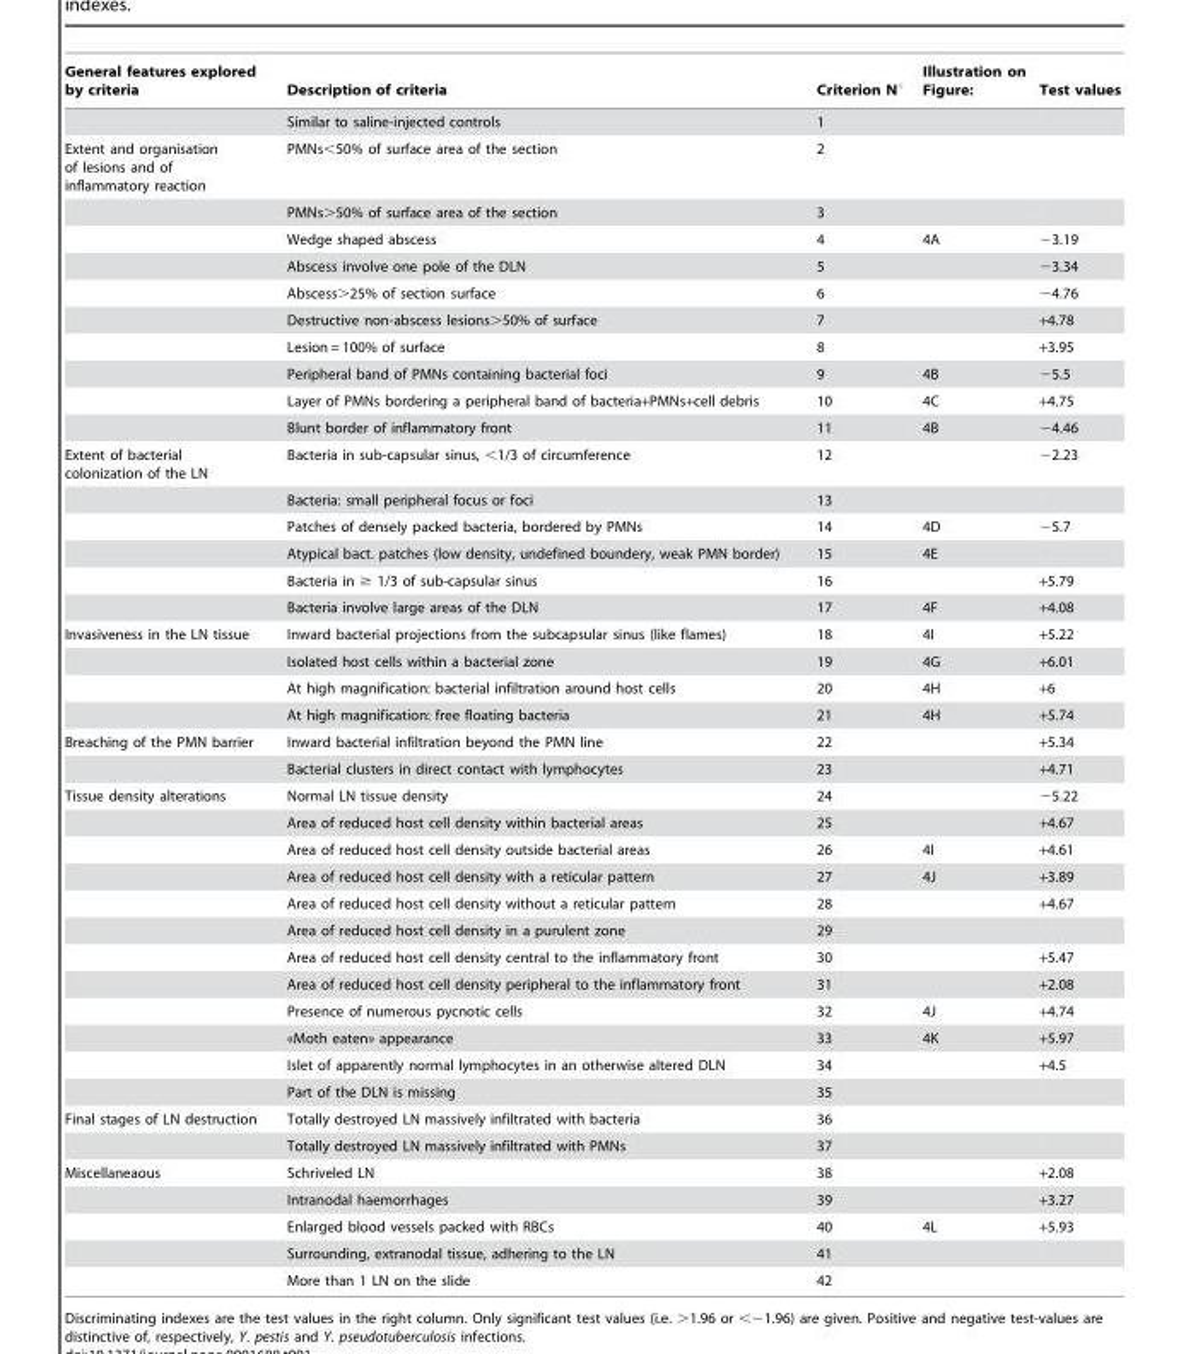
<table><thead><tr><td>General features explored by criteria</td><td>Description of criteria</td><td>Criterion N°</td><td>Illustration on Figure:</td><td>Test values</td></tr></thead><tbody><tr><td></td><td>Similar to saline-injected controls</td><td>1</td><td></td><td></td></tr><tr><td rowspan="10">Extent and organisation of lesions and of inflammatory reaction</td><td>PMNs&lt;50% of surface area of the section</td><td>2</td><td></td><td></td></tr><tr><td>PMNs&gt;50% of surface area of the section</td><td>3</td><td></td><td></td></tr><tr><td>Wedge shaped abscess</td><td>4</td><td>4A</td><td>−3.19</td></tr><tr><td>Abscess involve one pole of the DLN</td><td>5</td><td></td><td>−3.34</td></tr><tr><td>Abscess&gt;25% of section surface</td><td>6</td><td></td><td>−4.76</td></tr><tr><td>Destructive non-abscess lesions&gt;50% of surface</td><td>7</td><td></td><td>+4.78</td></tr><tr><td>Lesion = 100% of surface</td><td>8</td><td></td><td>+3.95</td></tr><tr><td>Peripheral band of PMNs containing bacterial foci</td><td>9</td><td>4B</td><td>−5.5</td></tr><tr><td>Layer of PMNs bordering a peripheral band of bacteria+PMNs+cell debris</td><td>10</td><td>4C</td><td>+4.75</td></tr><tr><td>Blunt border of inflammatory front</td><td>11</td><td>4B</td><td>−4.46</td></tr><tr><td rowspan="6">Extent of bacterial colonization of the LN</td><td>Bacteria in sub-capsular sinus, &lt;1/3 of circumference</td><td>12</td><td></td><td>−2.23</td></tr><tr><td>Bacteria: small peripheral focus or foci</td><td>13</td><td></td><td></td></tr><tr><td>Patches of densely packed bacteria, bordered by PMNs</td><td>14</td><td>4D</td><td>−5.7</td></tr><tr><td>Atypical bact. patches (low density, undefined boundery, weak PMN border)</td><td>15</td><td>4E</td><td></td></tr><tr><td>Bacteria in ≥ 1/3 of sub-capsular sinus</td><td>16</td><td></td><td>+5.79</td></tr><tr><td>Bacteria involve large areas of the DLN</td><td>17</td><td>4F</td><td>+4.08</td></tr><tr><td rowspan="4">Invasiveness in the LN tissue</td><td>Inward bacterial projections from the subcapsular sinus (like flames)</td><td>18</td><td>4I</td><td>+5.22</td></tr><tr><td>Isolated host cells within a bacterial zone</td><td>19</td><td>4G</td><td>+6.01</td></tr><tr><td>At high magnification: bacterial infiltration around host cells</td><td>20</td><td>4H</td><td>+6</td></tr><tr><td>At high magnification: free floating bacteria</td><td>21</td><td>4H</td><td>+5.74</td></tr><tr><td rowspan="2">Breaching of the PMN barrier</td><td>Inward bacterial infiltration beyond the PMN line</td><td>22</td><td></td><td>+5.34</td></tr><tr><td>Bacterial clusters in direct contact with lymphocytes</td><td>23</td><td></td><td>+4.71</td></tr><tr><td rowspan="12">Tissue density alterations</td><td>Normal LN tissue density</td><td>24</td><td></td><td>−5.22</td></tr><tr><td>Area of reduced host cell density within bacterial areas</td><td>25</td><td></td><td>+4.67</td></tr><tr><td>Area of reduced host cell density outside bacterial areas</td><td>26</td><td>4I</td><td>+4.61</td></tr><tr><td>Area of reduced host cell density with a reticular pattern</td><td>27</td><td>4J</td><td>+3.89</td></tr><tr><td>Area of reduced host cell density without a reticular pattern</td><td>28</td><td></td><td>+4.67</td></tr><tr><td>Area of reduced host cell density in a purulent zone</td><td>29</td><td></td><td></td></tr><tr><td>Area of reduced host cell density central to the inflammatory front</td><td>30</td><td></td><td>+5.47</td></tr><tr><td>Area of reduced host cell density peripheral to the inflammatory front</td><td>31</td><td></td><td>+2.08</td></tr><tr><td>Presence of numerous pycnotic cells</td><td>32</td><td>4J</td><td>+4.74</td></tr><tr><td>«Moth eaten» appearance</td><td>33</td><td>4K</td><td>+5.97</td></tr><tr><td>Islet of apparently normal lymphocytes in an otherwise altered DLN</td><td>34</td><td></td><td>+4.5</td></tr><tr><td>Part of the DLN is missing</td><td>35</td><td></td><td></td></tr><tr><td rowspan="2">Final stages of LN destruction</td><td>Totally destroyed LN massively infiltrated with bacteria</td><td>36</td><td></td><td></td></tr><tr><td>Totally destroyed LN massively infiltrated with PMNs</td><td>37</td><td></td><td></td></tr><tr><td rowspan="5">Miscellaneaous</td><td>Schriveled LN</td><td>38</td><td></td><td>+2.08</td></tr><tr><td>Intranodal haemorrhages</td><td>39</td><td></td><td>+3.27</td></tr><tr><td>Enlarged blood vessels packed with RBCs</td><td>40</td><td>4L</td><td>+5.93</td></tr><tr><td>Surrounding, extranodal tissue, adhering to the LN</td><td>41</td><td></td><td></td></tr><tr><td>More than 1 LN on the slide</td><td>42</td><td></td><td></td></tr></tbody></table>